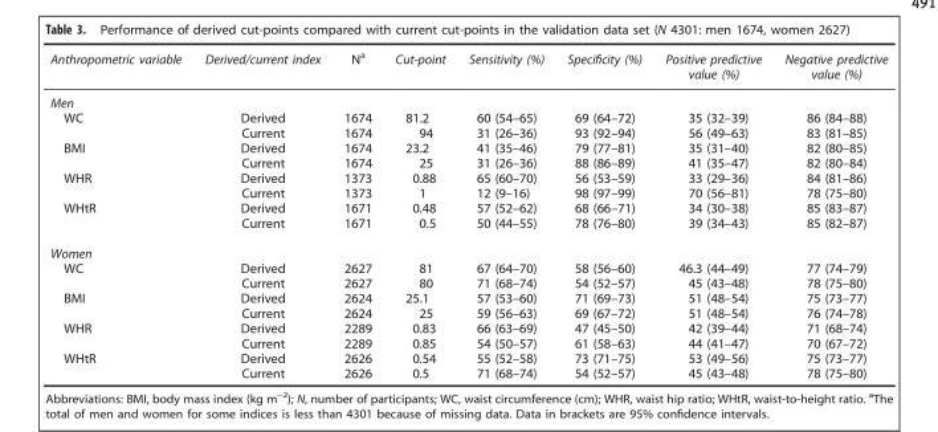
<table><thead><tr><td>Anthropometric variable</td><td>Derived/current index</td><td>N<sup>a</sup></td><td>Cut-point</td><td>Sensitivity (%)</td><td>Specificity (%)</td><td>Positive predictive value (%)</td><td>Negative predictive value (%)</td></tr></thead><tbody><tr><td colspan="8">Men</td></tr><tr><td rowspan="2">WC</td><td>Derived</td><td>1674</td><td>81.2</td><td>60 (54–65)</td><td>69 (64–72)</td><td>35 (32–39)</td><td>86 (84–88)</td></tr><tr><td>Current</td><td>1674</td><td>94</td><td>31 (26–36)</td><td>93 (92–94)</td><td>56 (49–63)</td><td>83 (81–85)</td></tr><tr><td rowspan="2">BMI</td><td>Derived</td><td>1674</td><td>23.2</td><td>41 (35–46)</td><td>79 (77–81)</td><td>35 (31–40)</td><td>82 (80–85)</td></tr><tr><td>Current</td><td>1674</td><td>25</td><td>31 (26–36)</td><td>88 (86–89)</td><td>41 (35–47)</td><td>82 (80–84)</td></tr><tr><td rowspan="2">WHR</td><td>Derived</td><td>1373</td><td>0.88</td><td>65 (60–70)</td><td>56 (53–59)</td><td>33 (29–36)</td><td>84 (81–86)</td></tr><tr><td>Current</td><td>1373</td><td>1</td><td>12 (9–16)</td><td>98 (97–99)</td><td>70 (56–81)</td><td>78 (75–80)</td></tr><tr><td rowspan="2">WHtR</td><td>Derived</td><td>1671</td><td>0.48</td><td>57 (52–62)</td><td>68 (66–71)</td><td>34 (30–38)</td><td>85 (83–87)</td></tr><tr><td>Current</td><td>1671</td><td>0.5</td><td>50 (44–55)</td><td>78 (76–80)</td><td>39 (34–43)</td><td>85 (82–87)</td></tr><tr><td colspan="8">Women</td></tr><tr><td rowspan="2">WC</td><td>Derived</td><td>2627</td><td>81</td><td>67 (64–70)</td><td>58 (56–60)</td><td>46.3 (44–49)</td><td>77 (74–79)</td></tr><tr><td>Current</td><td>2627</td><td>80</td><td>71 (68–74)</td><td>54 (52–57)</td><td>45 (43–48)</td><td>78 (75–80)</td></tr><tr><td rowspan="2">BMI</td><td>Derived</td><td>2624</td><td>25.1</td><td>57 (53–60)</td><td>71 (69–73)</td><td>51 (48–54)</td><td>75 (73–77)</td></tr><tr><td>Current</td><td>2624</td><td>25</td><td>59 (56–63)</td><td>69 (67–72)</td><td>51 (48–54)</td><td>76 (74–78)</td></tr><tr><td rowspan="2">WHR</td><td>Derived</td><td>2289</td><td>0.83</td><td>66 (63–69)</td><td>47 (45–50)</td><td>42 (39–44)</td><td>71 (68–74)</td></tr><tr><td>Current</td><td>2289</td><td>0.85</td><td>54 (50–57)</td><td>61 (58–63)</td><td>44 (41–47)</td><td>70 (67–72)</td></tr><tr><td rowspan="2">WHtR</td><td>Derived</td><td>2626</td><td>0.54</td><td>55 (52–58)</td><td>73 (71–75)</td><td>53 (49–56)</td><td>75 (73–77)</td></tr><tr><td>Current</td><td>2626</td><td>0.5</td><td>71 (68–74)</td><td>54 (52–57)</td><td>45 (43–48)</td><td>78 (75–80)</td></tr></tbody></table>